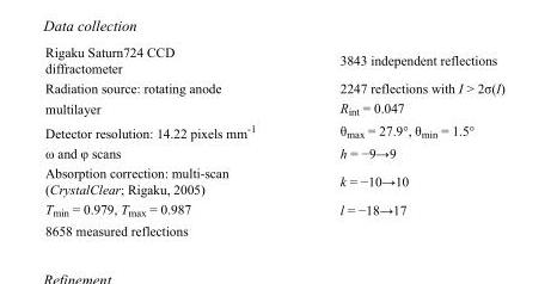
<table><tbody><tr><td>Rigaku Saturn724 CCD diffractometer</td><td>3843 independent reflections</td></tr><tr><td>Radiation source: rotating anode</td><td>2247 reflections with I &gt; 2σ(I)</td></tr><tr><td>multilayer</td><td>R<sub>int</sub> = 0.047</td></tr><tr><td>Detector resolution: 14.22 pixels mm<sup>-1</sup></td><td>θ<sub>max</sub> = 27.9°, θ<sub>min</sub> = 1.5°</td></tr><tr><td>ω and φ scans</td><td>h = −9→9</td></tr><tr><td>Absorption correction: multi-scan (CrystalClear; Rigaku, 2005)</td><td>k = −10→10</td></tr><tr><td>T<sub>min</sub> = 0.979, T<sub>max</sub> = 0.987</td><td>l = −18→17</td></tr><tr><td>8658 measured reflections</td><td></td></tr></tbody></table>